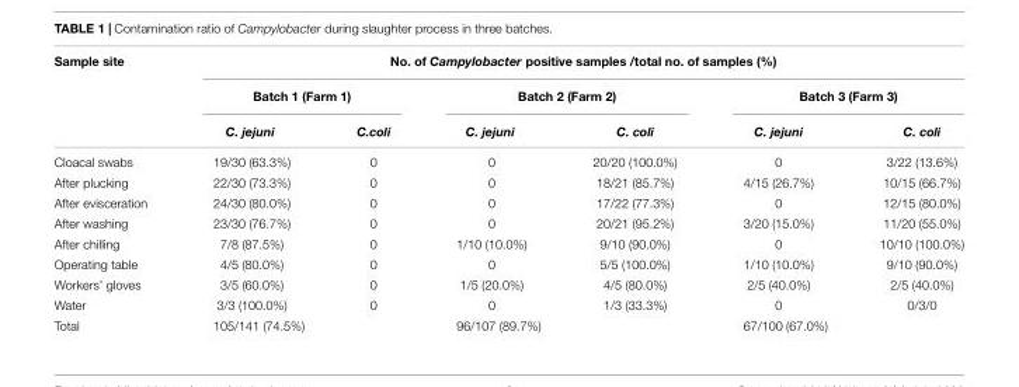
<table><thead><tr><td rowspan="3">Sample site</td><td colspan="6">No. of Campylobacter positive samples /total no. of samples (%)</td></tr><tr><td colspan="2">Batch 1 (Farm 1)</td><td colspan="2">Batch 2 (Farm 2)</td><td colspan="2">Batch 3 (Farm 3)</td></tr><tr><td>C. jejuni</td><td>C.coli</td><td>C. jejuni</td><td>C. coli</td><td>C. jejuni</td><td>C. coli</td></tr></thead><tbody><tr><td>Cloacal swabs</td><td>19/30 (63.3%)</td><td>0</td><td>0</td><td>20/20 (100.0%)</td><td>0</td><td>3/22 (13.6%)</td></tr><tr><td>After plucking</td><td>22/30 (73.3%)</td><td>0</td><td>0</td><td>18/21 (85.7%)</td><td>4/15 (26.7%)</td><td>10/15 (66.7%)</td></tr><tr><td>After evisceration</td><td>24/30 (80.0%)</td><td>0</td><td>0</td><td>17/22 (77.3%)</td><td>0</td><td>12/15 (80.0%)</td></tr><tr><td>After washing</td><td>23/30 (76.7%)</td><td>0</td><td>0</td><td>20/21 (95.2%)</td><td>3/20 (15.0%)</td><td>11/20 (55.0%)</td></tr><tr><td>After chilling</td><td>7/8 (87.5%)</td><td>0</td><td>1/10 (10.0%)</td><td>9/10 (90.0%)</td><td>0</td><td>10/10 (100.0%)</td></tr><tr><td>Operating table</td><td>4/5 (80.0%)</td><td>0</td><td>0</td><td>5/5 (100.0%)</td><td>1/10 (10.0%)</td><td>9/10 (90.0%)</td></tr><tr><td>Workers’ gloves</td><td>3/5 (60.0%)</td><td>0</td><td>1/5 (20.0%)</td><td>4/5 (80.0%)</td><td>2/5 (40.0%)</td><td>2/5 (40.0%)</td></tr><tr><td>Water</td><td>3/3 (100.0%)</td><td>0</td><td>0</td><td>1/3 (33.3%)</td><td>0</td><td>0/3/0</td></tr><tr><td>Total</td><td>105/141 (74.5%)</td><td></td><td>96/107 (89.7%)</td><td></td><td>67/100 (67.0%)</td><td></td></tr></tbody></table>